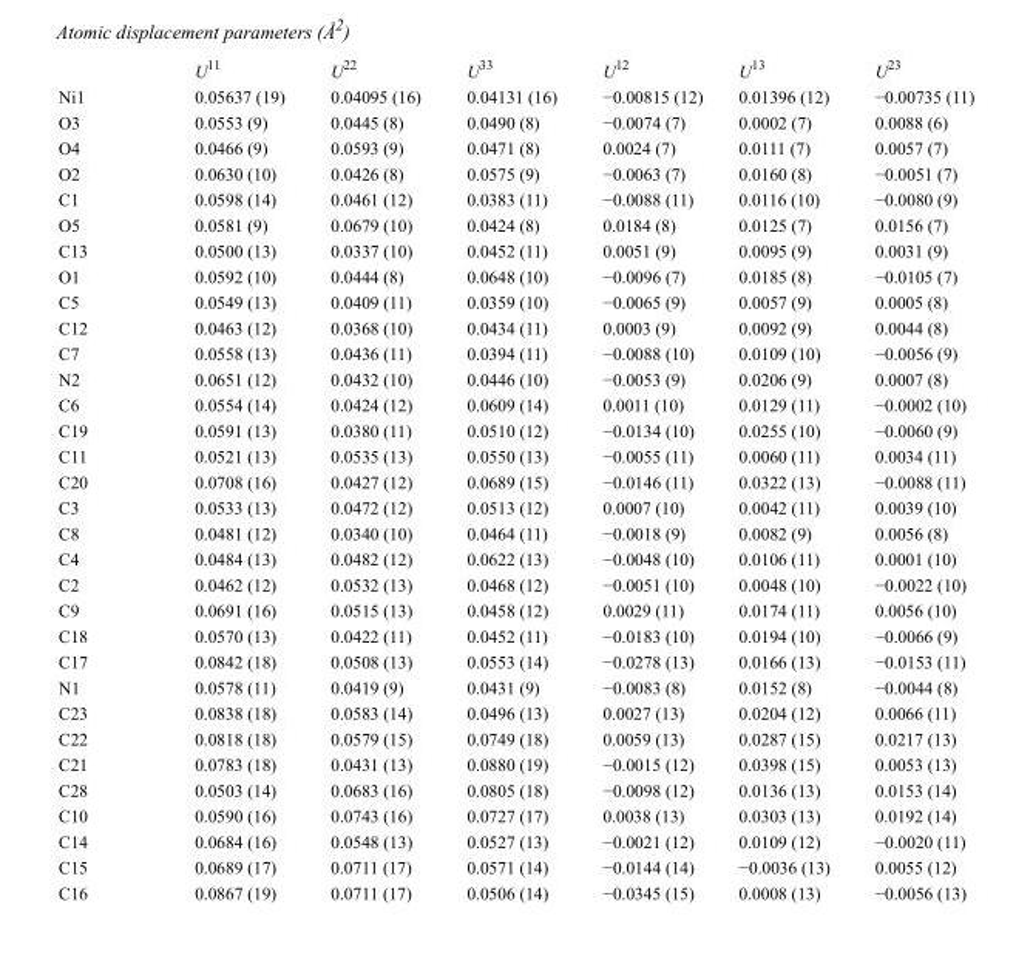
<table><thead><tr><td></td><td>U<sup>11</sup></td><td>U<sup>22</sup></td><td>U<sup>33</sup></td><td>U<sup>12</sup></td><td>U<sup>13</sup></td><td>U<sup>23</sup></td></tr></thead><tbody><tr><td>Ni1</td><td>0.05637 (19)</td><td>0.04095 (16)</td><td>0.04131 (16)</td><td>−0.00815 (12)</td><td>0.01396 (12)</td><td>−0.00735 (11)</td></tr><tr><td>O3</td><td>0.0553 (9)</td><td>0.0445 (8)</td><td>0.0490 (8)</td><td>−0.0074 (7)</td><td>0.0002 (7)</td><td>0.0088 (6)</td></tr><tr><td>O4</td><td>0.0466 (9)</td><td>0.0593 (9)</td><td>0.0471 (8)</td><td>0.0024 (7)</td><td>0.0111 (7)</td><td>0.0057 (7)</td></tr><tr><td>O2</td><td>0.0630 (10)</td><td>0.0426 (8)</td><td>0.0575 (9)</td><td>−0.0063 (7)</td><td>0.0160 (8)</td><td>−0.0051 (7)</td></tr><tr><td>C1</td><td>0.0598 (14)</td><td>0.0461 (12)</td><td>0.0383 (11)</td><td>−0.0088 (11)</td><td>0.0116 (10)</td><td>−0.0080 (9)</td></tr><tr><td>O5</td><td>0.0581 (9)</td><td>0.0679 (10)</td><td>0.0424 (8)</td><td>0.0184 (8)</td><td>0.0125 (7)</td><td>0.0156 (7)</td></tr><tr><td>C13</td><td>0.0500 (13)</td><td>0.0337 (10)</td><td>0.0452 (11)</td><td>0.0051 (9)</td><td>0.0095 (9)</td><td>0.0031 (9)</td></tr><tr><td>O1</td><td>0.0592 (10)</td><td>0.0444 (8)</td><td>0.0648 (10)</td><td>−0.0096 (7)</td><td>0.0185 (8)</td><td>−0.0105 (7)</td></tr><tr><td>C5</td><td>0.0549 (13)</td><td>0.0409 (11)</td><td>0.0359 (10)</td><td>−0.0065 (9)</td><td>0.0057 (9)</td><td>0.0005 (8)</td></tr><tr><td>C12</td><td>0.0463 (12)</td><td>0.0368 (10)</td><td>0.0434 (11)</td><td>0.0003 (9)</td><td>0.0092 (9)</td><td>0.0044 (8)</td></tr><tr><td>C7</td><td>0.0558 (13)</td><td>0.0436 (11)</td><td>0.0394 (11)</td><td>−0.0088 (10)</td><td>0.0109 (10)</td><td>−0.0056 (9)</td></tr><tr><td>N2</td><td>0.0651 (12)</td><td>0.0432 (10)</td><td>0.0446 (10)</td><td>−0.0053 (9)</td><td>0.0206 (9)</td><td>0.0007 (8)</td></tr><tr><td>C6</td><td>0.0554 (14)</td><td>0.0424 (12)</td><td>0.0609 (14)</td><td>0.0011 (10)</td><td>0.0129 (11)</td><td>−0.0002 (10)</td></tr><tr><td>C19</td><td>0.0591 (13)</td><td>0.0380 (11)</td><td>0.0510 (12)</td><td>−0.0134 (10)</td><td>0.0255 (10)</td><td>−0.0060 (9)</td></tr><tr><td>C11</td><td>0.0521 (13)</td><td>0.0535 (13)</td><td>0.0550 (13)</td><td>−0.0055 (11)</td><td>0.0060 (11)</td><td>0.0034 (11)</td></tr><tr><td>C20</td><td>0.0708 (16)</td><td>0.0427 (12)</td><td>0.0689 (15)</td><td>−0.0146 (11)</td><td>0.0322 (13)</td><td>−0.0088 (11)</td></tr><tr><td>C3</td><td>0.0533 (13)</td><td>0.0472 (12)</td><td>0.0513 (12)</td><td>0.0007 (10)</td><td>0.0042 (11)</td><td>0.0039 (10)</td></tr><tr><td>C8</td><td>0.0481 (12)</td><td>0.0340 (10)</td><td>0.0464 (11)</td><td>−0.0018 (9)</td><td>0.0082 (9)</td><td>0.0056 (8)</td></tr><tr><td>C4</td><td>0.0484 (13)</td><td>0.0482 (12)</td><td>0.0622 (13)</td><td>−0.0048 (10)</td><td>0.0106 (11)</td><td>0.0001 (10)</td></tr><tr><td>C2</td><td>0.0462 (12)</td><td>0.0532 (13)</td><td>0.0468 (12)</td><td>−0.0051 (10)</td><td>0.0048 (10)</td><td>−0.0022 (10)</td></tr><tr><td>C9</td><td>0.0691 (16)</td><td>0.0515 (13)</td><td>0.0458 (12)</td><td>0.0029 (11)</td><td>0.0174 (11)</td><td>0.0056 (10)</td></tr><tr><td>C18</td><td>0.0570 (13)</td><td>0.0422 (11)</td><td>0.0452 (11)</td><td>−0.0183 (10)</td><td>0.0194 (10)</td><td>−0.0066 (9)</td></tr><tr><td>C17</td><td>0.0842 (18)</td><td>0.0508 (13)</td><td>0.0553 (14)</td><td>−0.0278 (13)</td><td>0.0166 (13)</td><td>−0.0153 (11)</td></tr><tr><td>N1</td><td>0.0578 (11)</td><td>0.0419 (9)</td><td>0.0431 (9)</td><td>−0.0083 (8)</td><td>0.0152 (8)</td><td>−0.0044 (8)</td></tr><tr><td>C23</td><td>0.0838 (18)</td><td>0.0583 (14)</td><td>0.0496 (13)</td><td>0.0027 (13)</td><td>0.0204 (12)</td><td>0.0066 (11)</td></tr><tr><td>C22</td><td>0.0818 (18)</td><td>0.0579 (15)</td><td>0.0749 (18)</td><td>0.0059 (13)</td><td>0.0287 (15)</td><td>0.0217 (13)</td></tr><tr><td>C21</td><td>0.0783 (18)</td><td>0.0431 (13)</td><td>0.0880 (19)</td><td>−0.0015 (12)</td><td>0.0398 (15)</td><td>0.0053 (13)</td></tr><tr><td>C28</td><td>0.0503 (14)</td><td>0.0683 (16)</td><td>0.0805 (18)</td><td>−0.0098 (12)</td><td>0.0136 (13)</td><td>0.0153 (14)</td></tr><tr><td>C10</td><td>0.0590 (16)</td><td>0.0743 (16)</td><td>0.0727 (17)</td><td>0.0038 (13)</td><td>0.0303 (13)</td><td>0.0192 (14)</td></tr><tr><td>C14</td><td>0.0684 (16)</td><td>0.0548 (13)</td><td>0.0527 (13)</td><td>−0.0021 (12)</td><td>0.0109 (12)</td><td>−0.0020 (11)</td></tr><tr><td>C15</td><td>0.0689 (17)</td><td>0.0711 (17)</td><td>0.0571 (14)</td><td>−0.0144 (14)</td><td>−0.0036 (13)</td><td>0.0055 (12)</td></tr><tr><td>C16</td><td>0.0867 (19)</td><td>0.0711 (17)</td><td>0.0506 (14)</td><td>−0.0345 (15)</td><td>0.0008 (13)</td><td>−0.0056 (13)</td></tr></tbody></table>